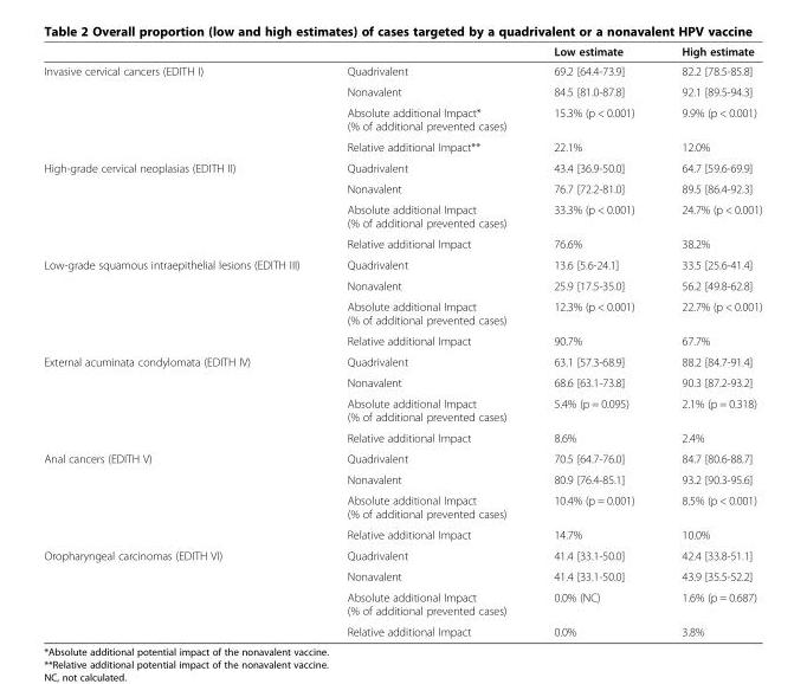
<table><thead><tr><td></td><td></td><td>Low estimate</td><td>High estimate</td></tr></thead><tbody><tr><td rowspan="4">Invasive cervical cancers (EDITH I)</td><td>Quadrivalent</td><td>69.2 [64.4-73.9]</td><td>82.2 [78.5-85.8]</td></tr><tr><td>Nonavalent</td><td>84.5 [81.0-87.8]</td><td>92.1 [89.5-94.3]</td></tr><tr><td>Absolute additional Impact* (% of additional prevented cases)</td><td>15.3% (p &lt; 0.001)</td><td>9.9% (p &lt; 0.001)</td></tr><tr><td>Relative additional Impact**</td><td>22.1%</td><td>12.0%</td></tr><tr><td rowspan="4">High-grade cervical neoplasias (EDITH II)</td><td>Quadrivalent</td><td>43.4 [36.9-50.0]</td><td>64.7 [59.6-69.9]</td></tr><tr><td>Nonavalent</td><td>76.7 [72.2-81.0]</td><td>89.5 [86.4-92.3]</td></tr><tr><td>Absolute additional Impact (% of additional prevented cases)</td><td>33.3% (p &lt; 0.001)</td><td>24.7% (p &lt; 0.001)</td></tr><tr><td>Relative additional Impact</td><td>76.6%</td><td>38.2%</td></tr><tr><td rowspan="4">Low-grade squamous intraepithelial lesions (EDITH III)</td><td>Quadrivalent</td><td>13.6 [5.6-24.1]</td><td>33.5 [25.6-41.4]</td></tr><tr><td>Nonavalent</td><td>25.9 [17.5-35.0]</td><td>56.2 [49.8-62.8]</td></tr><tr><td>Absolute additional Impact (% of additional prevented cases)</td><td>12.3% (p &lt; 0.001)</td><td>22.7% (p &lt; 0.001)</td></tr><tr><td>Relative additional Impact</td><td>90.7%</td><td>67.7%</td></tr><tr><td rowspan="4">External acuminata condylomata (EDITH IV)</td><td>Quadrivalent</td><td>63.1 [57.3-68.9]</td><td>88.2 [84.7-91.4]</td></tr><tr><td>Nonavalent</td><td>68.6 [63.1-73.8]</td><td>90.3 [87.2-93.2]</td></tr><tr><td>Absolute additional Impact (% of additional prevented cases)</td><td>5.4% (p = 0.095)</td><td>2.1% (p = 0.318)</td></tr><tr><td>Relative additional Impact</td><td>8.6%</td><td>2.4%</td></tr><tr><td rowspan="4">Anal cancers (EDITH V)</td><td>Quadrivalent</td><td>70.5 [64.7-76.0]</td><td>84.7 [80.6-88.7]</td></tr><tr><td>Nonavalent</td><td>80.9 [76.4-85.1]</td><td>93.2 [90.3-95.6]</td></tr><tr><td>Absolute additional Impact (% of additional prevented cases)</td><td>10.4% (p = 0.001)</td><td>8.5% (p &lt; 0.001)</td></tr><tr><td>Relative additional Impact</td><td>14.7%</td><td>10.0%</td></tr><tr><td rowspan="4">Oropharyngeal carcinomas (EDITH VI)</td><td>Quadrivalent</td><td>41.4 [33.1-50.0]</td><td>42.4 [33.8-51.1]</td></tr><tr><td>Nonavalent</td><td>41.4 [33.1-50.0]</td><td>43.9 [35.5-52.2]</td></tr><tr><td>Absolute additional Impact (% of additional prevented cases)</td><td>0.0% (NC)</td><td>1.6% (p = 0.687)</td></tr><tr><td>Relative additional Impact</td><td>0.0%</td><td>3.8%</td></tr></tbody></table>